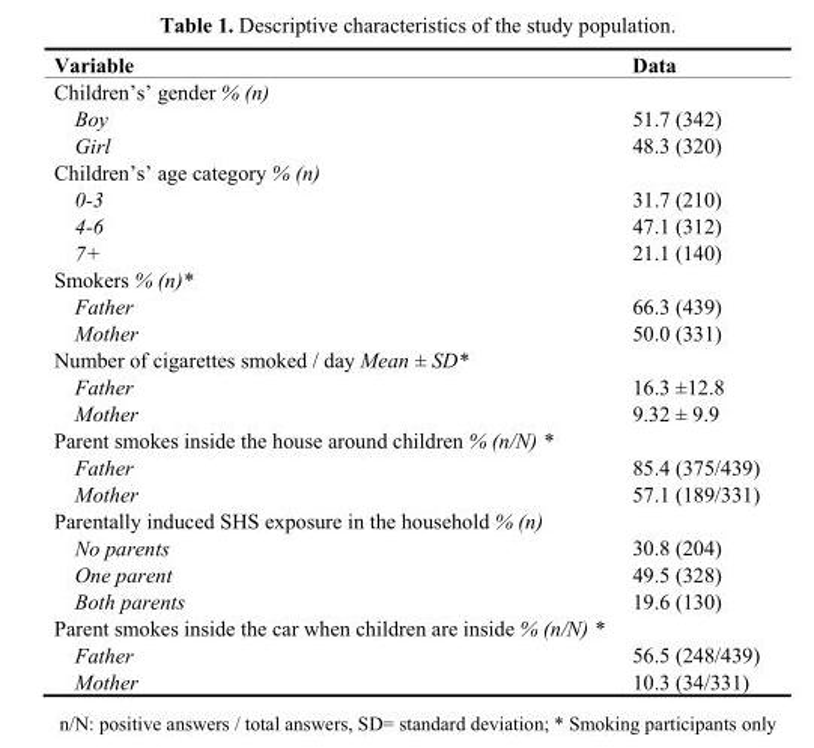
<table><thead><tr><td>Variable</td><td>Data</td></tr></thead><tbody><tr><td colspan="2">Children’s’ gender % (n)</td></tr><tr><td>Boy</td><td>51.7 (342)</td></tr><tr><td>Girl</td><td>48.3 (320)</td></tr><tr><td colspan="2">Children’s’ age category % (n)</td></tr><tr><td>0-3</td><td>31.7 (210)</td></tr><tr><td>4-6</td><td>47.1 (312)</td></tr><tr><td>7+</td><td>21.1 (140)</td></tr><tr><td colspan="2">Smokers % (n)*</td></tr><tr><td>Father</td><td>66.3 (439)</td></tr><tr><td>Mother</td><td>50.0 (331)</td></tr><tr><td colspan="2">Number of cigarettes smoked / day Μean ± SD*</td></tr><tr><td>Father</td><td>16.3 ±12.8</td></tr><tr><td>Mother</td><td>9.32 ± 9.9</td></tr><tr><td colspan="2">Parent smokes inside the house around children % (n/N) *</td></tr><tr><td>Father</td><td>85.4 (375/439)</td></tr><tr><td>Mother</td><td>57.1 (189/331)</td></tr><tr><td colspan="2">Parentally induced SHS exposure in the household % (n)</td></tr><tr><td>No parents</td><td>30.8 (204)</td></tr><tr><td>One parent</td><td>49.5 (328)</td></tr><tr><td>Both parents</td><td>19.6 (130)</td></tr><tr><td colspan="2">Parent smokes inside the car when children are inside % (n/N) *</td></tr><tr><td>Father</td><td>56.5 (248/439)</td></tr><tr><td>Mother</td><td>10.3 (34/331)</td></tr></tbody></table>